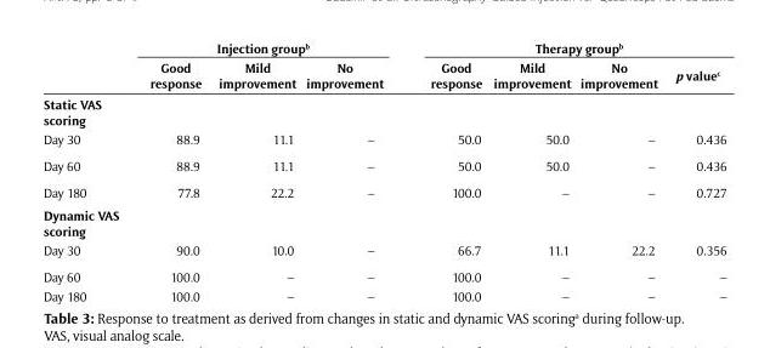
<table><thead><tr><td rowspan="2"></td><td colspan="3">Injection group<sup>b</sup></td><td colspan="4">Therapy group<sup>b</sup></td></tr><tr><td>Good response</td><td>Mild improvement</td><td>No improvement</td><td>Good response</td><td>Mild improvement</td><td>No improvement</td><td>p value<sup>c</sup></td></tr></thead><tbody><tr><td colspan="8">Static VAS scoring</td></tr><tr><td>Day 30</td><td>88.9</td><td>11.1</td><td>–</td><td>50.0</td><td>50.0</td><td>–</td><td>0.436</td></tr><tr><td>Day 60</td><td>88.9</td><td>11.1</td><td>–</td><td>50.0</td><td>50.0</td><td>–</td><td>0.436</td></tr><tr><td>Day 180</td><td>77.8</td><td>22.2</td><td>–</td><td>100.0</td><td>–</td><td>–</td><td>0.727</td></tr><tr><td colspan="8">Dynamic VAS scoring</td></tr><tr><td>Day 30</td><td>90.0</td><td>10.0</td><td>–</td><td>66.7</td><td>11.1</td><td>22.2</td><td>0.356</td></tr><tr><td>Day 60</td><td>100.0</td><td>–</td><td>–</td><td>100.0</td><td>–</td><td>–</td><td>–</td></tr><tr><td>Day 180</td><td>100.0</td><td>–</td><td>–</td><td>100.0</td><td>–</td><td>–</td><td>–</td></tr></tbody></table>